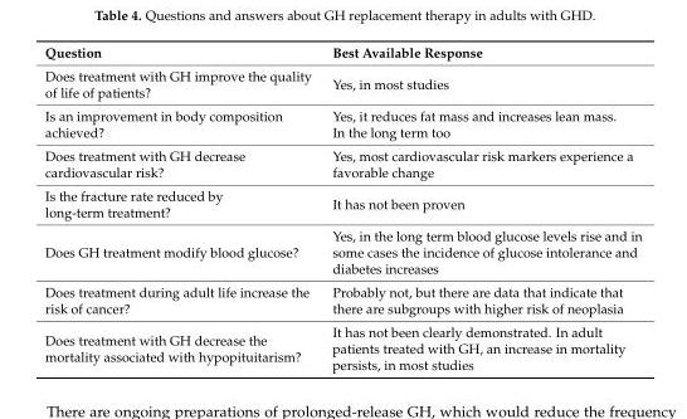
<table><thead><tr><td>Question</td><td>Best Available Response</td></tr></thead><tbody><tr><td>Does treatment with GH improve the quality of life of patients?</td><td>Yes, in most studies</td></tr><tr><td>Is an improvement in body composition achieved?</td><td>Yes, it reduces fat mass and increases lean mass. In the long term too</td></tr><tr><td>Does treatment with GH decrease cardiovascular risk?</td><td>Yes, most cardiovascular risk markers experience a favorable change</td></tr><tr><td>Is the fracture rate reduced by long-term treatment?</td><td>It has not been proven</td></tr><tr><td>Does GH treatment modify blood glucose?</td><td>Yes, in the long term blood glucose levels rise and in some cases the incidence of glucose intolerance and diabetes increases</td></tr><tr><td>Does treatment during adult life increase the risk of cancer?</td><td>Probably not, but there are data that indicate that there are subgroups with higher risk of neoplasia</td></tr><tr><td>Does treatment with GH decrease the mortality associated with hypopituitarism?</td><td>It has not been clearly demonstrated. In adult patients treated with GH, an increase in mortality persists, in most studies</td></tr></tbody></table>